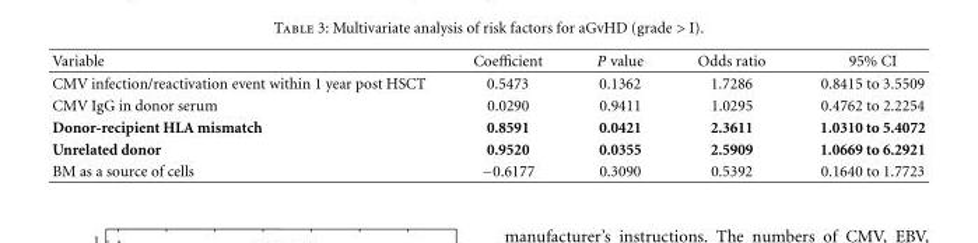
<table><thead><tr><td>Variable</td><td>Coefficient</td><td>P value</td><td>Odds ratio</td><td>95% CI</td></tr></thead><tbody><tr><td>CMV infection/reactivation event within 1 year post HSCT</td><td>0.5473</td><td>0.1362</td><td>1.7286</td><td>0.8415 to 3.5509</td></tr><tr><td>CMV IgG in donor serum</td><td>0.0290</td><td>0.9411</td><td>1.0295</td><td>0.4762 to 2.2254</td></tr><tr><td>Donor-recipient HLA mismatch</td><td>0.8591</td><td>0.0421</td><td>2.3611</td><td>1.0310 to 5.4072</td></tr><tr><td>Unrelated donor</td><td>0.9520</td><td>0.0355</td><td>2.5909</td><td>1.0669 to 6.2921</td></tr><tr><td>BM as a source of cells</td><td>−0.6177</td><td>0.3090</td><td>0.5392</td><td>0.1640 to 1.7723</td></tr></tbody></table>